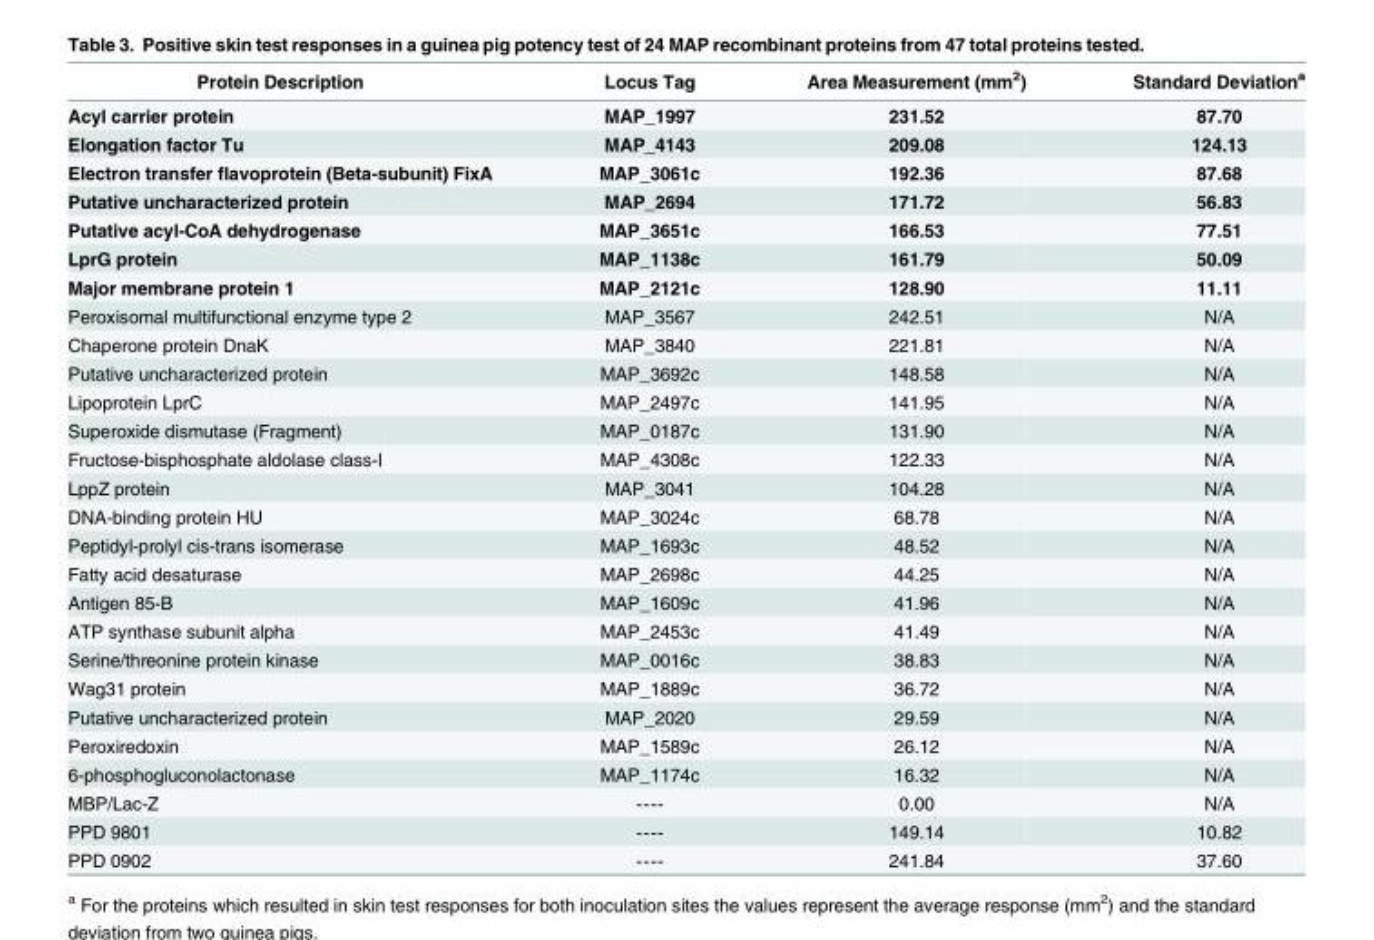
<table><thead><tr><td>Protein Description</td><td>Locus Tag</td><td>Area Measurement (mm<sup>2</sup>)</td><td>Standard Deviation<sup>a</sup></td></tr></thead><tbody><tr><td>Acyl carrier protein</td><td>MAP_1997</td><td>231.52</td><td>87.70</td></tr><tr><td>Elongation factor Tu</td><td>MAP_4143</td><td>209.08</td><td>124.13</td></tr><tr><td>Electron transfer flavoprotein (Beta-subunit) FixA</td><td>MAP_3061c</td><td>192.36</td><td>87.68</td></tr><tr><td>Putative uncharacterized protein</td><td>MAP_2694</td><td>171.72</td><td>56.83</td></tr><tr><td>Putative acyl-CoA dehydrogenase</td><td>MAP_3651c</td><td>166.53</td><td>77.51</td></tr><tr><td>LprG protein</td><td>MAP_1138c</td><td>161.79</td><td>50.09</td></tr><tr><td>Major membrane protein 1</td><td>MAP_2121c</td><td>128.90</td><td>11.11</td></tr><tr><td>Peroxisomal multifunctional enzyme type 2</td><td>MAP_3567</td><td>242.51</td><td>N/A</td></tr><tr><td>Chaperone protein DnaK</td><td>MAP_3840</td><td>221.81</td><td>N/A</td></tr><tr><td>Putative uncharacterized protein</td><td>MAP_3692c</td><td>148.58</td><td>N/A</td></tr><tr><td>Lipoprotein LprC</td><td>MAP_2497c</td><td>141.95</td><td>N/A</td></tr><tr><td>Superoxide dismutase (Fragment)</td><td>MAP_0187c</td><td>131.90</td><td>N/A</td></tr><tr><td>Fructose-bisphosphate aldolase class-I</td><td>MAP_4308c</td><td>122.33</td><td>N/A</td></tr><tr><td>LppZ protein</td><td>MAP_3041</td><td>104.28</td><td>N/A</td></tr><tr><td>DNA-binding protein HU</td><td>MAP_3024c</td><td>68.78</td><td>N/A</td></tr><tr><td>Peptidyl-prolyl cis-trans isomerase</td><td>MAP_1693c</td><td>48.52</td><td>N/A</td></tr><tr><td>Fatty acid desaturase</td><td>MAP_2698c</td><td>44.25</td><td>N/A</td></tr><tr><td>Antigen 85-B</td><td>MAP_1609c</td><td>41.96</td><td>N/A</td></tr><tr><td>ATP synthase subunit alpha</td><td>MAP_2453c</td><td>41.49</td><td>N/A</td></tr><tr><td>Serine/threonine protein kinase</td><td>MAP_0016c</td><td>38.83</td><td>N/A</td></tr><tr><td>Wag31 protein</td><td>MAP_1889c</td><td>36.72</td><td>N/A</td></tr><tr><td>Putative uncharacterized protein</td><td>MAP_2020</td><td>29.59</td><td>N/A</td></tr><tr><td>Peroxiredoxin</td><td>MAP_1589c</td><td>26.12</td><td>N/A</td></tr><tr><td>6-phosphogluconolactonase</td><td>MAP_1174c</td><td>16.32</td><td>N/A</td></tr><tr><td>MBP/Lac-Z</td><td>----</td><td>0.00</td><td>N/A</td></tr><tr><td>PPD 9801</td><td>----</td><td>149.14</td><td>10.82</td></tr><tr><td>PPD 0902</td><td>----</td><td>241.84</td><td>37.60</td></tr></tbody></table>